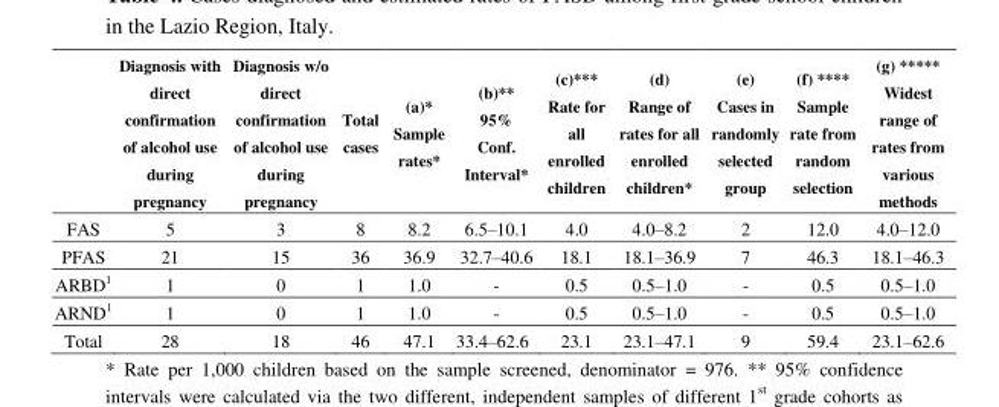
<table><thead><tr><td></td><td>Diagnosis with direct confirmation of alcohol use during pregnancy</td><td>Diagnosis w/o direct confirmation of alcohol use during pregnancy</td><td>Total cases</td><td>(a)* Sample rates*</td><td>(b)** 95% Conf. Interval*</td><td>(c)*** Rate for all enrolled children</td><td>(d) Range of rates for all enrolled children*</td><td>(e) Cases in randomly selected group</td><td>(f) **** Sample rate from random selection</td><td>(g) ***** Widest range of rates from various methods</td></tr></thead><tbody><tr><td>FAS</td><td>5</td><td>3</td><td>8</td><td>8.2</td><td>6.5–10.1</td><td>4.0</td><td>4.0–8.2</td><td>2</td><td>12.0</td><td>4.0–12.0</td></tr><tr><td>PFAS</td><td>21</td><td>15</td><td>36</td><td>36.9</td><td>32.7–40.6</td><td>18.1</td><td>18.1–36.9</td><td>7</td><td>46.3</td><td>18.1–46.3</td></tr><tr><td>ARBD<sup>1</sup></td><td>1</td><td>0</td><td>1</td><td>1.0</td><td>-</td><td>0.5</td><td>0.5–1.0</td><td>-</td><td>0.5</td><td>0.5–1.0</td></tr><tr><td>ARND<sup>1</sup></td><td>1</td><td>0</td><td>1</td><td>1.0</td><td>-</td><td>0.5</td><td>0.5–1.0</td><td>-</td><td>0.5</td><td>0.5–1.0</td></tr><tr><td>Total</td><td>28</td><td>18</td><td>46</td><td>47.1</td><td>33.4–62.6</td><td>23.1</td><td>23.1–47.1</td><td>9</td><td>59.4</td><td>23.1–62.6</td></tr></tbody></table>